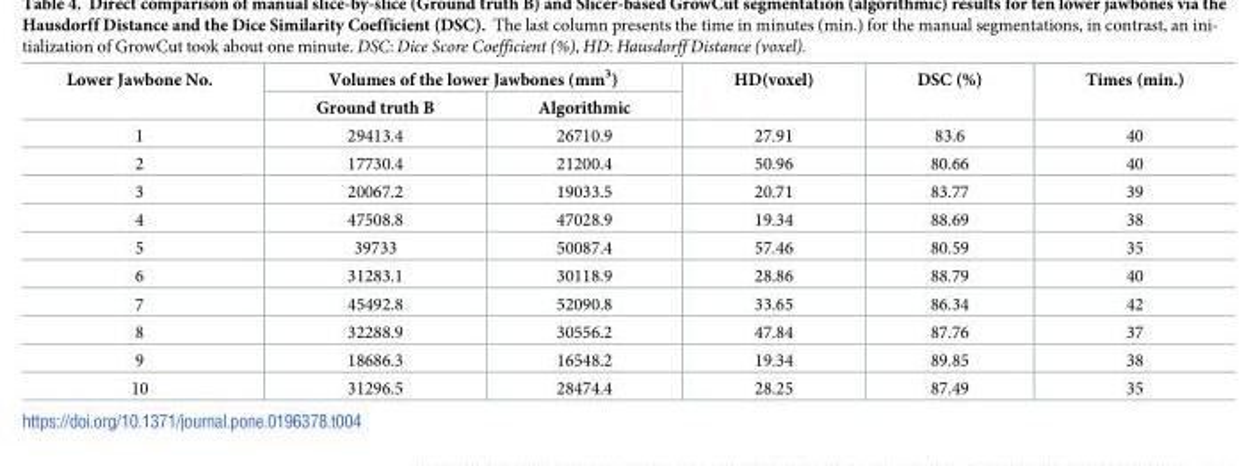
<table><thead><tr><td rowspan="2">Lower Jawbone No.</td><td colspan="2">Volumes of the lower Jawbones (mm<sup>3</sup>)</td><td rowspan="2">HD(voxel)</td><td rowspan="2">DSC (%)</td><td rowspan="2">Times (min.)</td></tr><tr><td>Ground truth B</td><td>Algorithmic</td></tr></thead><tbody><tr><td>1</td><td>29413.4</td><td>26710.9</td><td>27.91</td><td>83.6</td><td>40</td></tr><tr><td>2</td><td>17730.4</td><td>21200.4</td><td>50.96</td><td>80.66</td><td>40</td></tr><tr><td>3</td><td>20067.2</td><td>19033.5</td><td>20.71</td><td>83.77</td><td>39</td></tr><tr><td>4</td><td>47508.8</td><td>47028.9</td><td>19.34</td><td>88.69</td><td>38</td></tr><tr><td>5</td><td>39733</td><td>50087.4</td><td>57.46</td><td>80.59</td><td>35</td></tr><tr><td>6</td><td>31283.1</td><td>30118.9</td><td>28.86</td><td>88.79</td><td>40</td></tr><tr><td>7</td><td>45492.8</td><td>52090.8</td><td>33.65</td><td>86.34</td><td>42</td></tr><tr><td>8</td><td>32288.9</td><td>30556.2</td><td>47.84</td><td>87.76</td><td>37</td></tr><tr><td>9</td><td>18686.3</td><td>16548.2</td><td>19.34</td><td>89.85</td><td>38</td></tr><tr><td>10</td><td>31296.5</td><td>28474.4</td><td>28.25</td><td>87.49</td><td>35</td></tr></tbody></table>